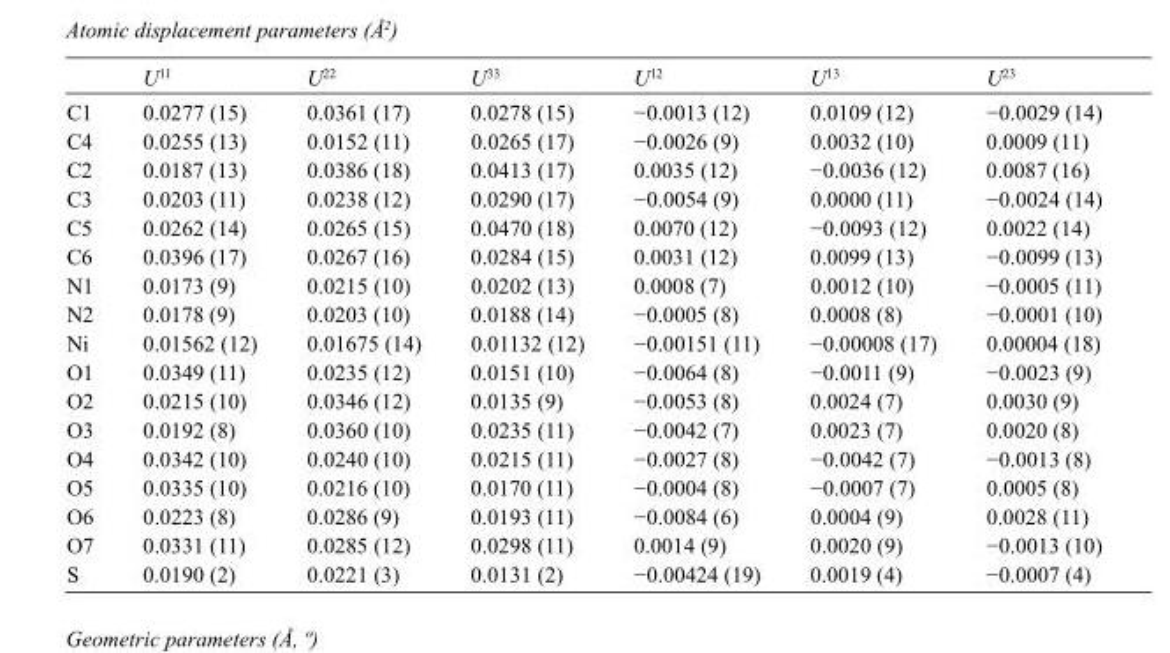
<table><thead><tr><td></td><td>U<sup>11</sup></td><td>U<sup>22</sup></td><td>U<sup>33</sup></td><td>U<sup>12</sup></td><td>U<sup>13</sup></td><td>U<sup>23</sup></td></tr></thead><tbody><tr><td>C1</td><td>0.0277 (15)</td><td>0.0361 (17)</td><td>0.0278 (15)</td><td>−0.0013 (12)</td><td>0.0109 (12)</td><td>−0.0029 (14)</td></tr><tr><td>C4</td><td>0.0255 (13)</td><td>0.0152 (11)</td><td>0.0265 (17)</td><td>−0.0026 (9)</td><td>0.0032 (10)</td><td>0.0009 (11)</td></tr><tr><td>C2</td><td>0.0187 (13)</td><td>0.0386 (18)</td><td>0.0413 (17)</td><td>0.0035 (12)</td><td>−0.0036 (12)</td><td>0.0087 (16)</td></tr><tr><td>C3</td><td>0.0203 (11)</td><td>0.0238 (12)</td><td>0.0290 (17)</td><td>−0.0054 (9)</td><td>0.0000 (11)</td><td>−0.0024 (14)</td></tr><tr><td>C5</td><td>0.0262 (14)</td><td>0.0265 (15)</td><td>0.0470 (18)</td><td>0.0070 (12)</td><td>−0.0093 (12)</td><td>0.0022 (14)</td></tr><tr><td>C6</td><td>0.0396 (17)</td><td>0.0267 (16)</td><td>0.0284 (15)</td><td>0.0031 (12)</td><td>0.0099 (13)</td><td>−0.0099 (13)</td></tr><tr><td>N1</td><td>0.0173 (9)</td><td>0.0215 (10)</td><td>0.0202 (13)</td><td>0.0008 (7)</td><td>0.0012 (10)</td><td>−0.0005 (11)</td></tr><tr><td>N2</td><td>0.0178 (9)</td><td>0.0203 (10)</td><td>0.0188 (14)</td><td>−0.0005 (8)</td><td>0.0008 (8)</td><td>−0.0001 (10)</td></tr><tr><td>Ni</td><td>0.01562 (12)</td><td>0.01675 (14)</td><td>0.01132 (12)</td><td>−0.00151 (11)</td><td>−0.00008 (17)</td><td>0.00004 (18)</td></tr><tr><td>O1</td><td>0.0349 (11)</td><td>0.0235 (12)</td><td>0.0151 (10)</td><td>−0.0064 (8)</td><td>−0.0011 (9)</td><td>−0.0023 (9)</td></tr><tr><td>O2</td><td>0.0215 (10)</td><td>0.0346 (12)</td><td>0.0135 (9)</td><td>−0.0053 (8)</td><td>0.0024 (7)</td><td>0.0030 (9)</td></tr><tr><td>O3</td><td>0.0192 (8)</td><td>0.0360 (10)</td><td>0.0235 (11)</td><td>−0.0042 (7)</td><td>0.0023 (7)</td><td>0.0020 (8)</td></tr><tr><td>O4</td><td>0.0342 (10)</td><td>0.0240 (10)</td><td>0.0215 (11)</td><td>−0.0027 (8)</td><td>−0.0042 (7)</td><td>−0.0013 (8)</td></tr><tr><td>O5</td><td>0.0335 (10)</td><td>0.0216 (10)</td><td>0.0170 (11)</td><td>−0.0004 (8)</td><td>−0.0007 (7)</td><td>0.0005 (8)</td></tr><tr><td>O6</td><td>0.0223 (8)</td><td>0.0286 (9)</td><td>0.0193 (11)</td><td>−0.0084 (6)</td><td>0.0004 (9)</td><td>0.0028 (11)</td></tr><tr><td>O7</td><td>0.0331 (11)</td><td>0.0285 (12)</td><td>0.0298 (11)</td><td>0.0014 (9)</td><td>0.0020 (9)</td><td>−0.0013 (10)</td></tr><tr><td>S</td><td>0.0190 (2)</td><td>0.0221 (3)</td><td>0.0131 (2)</td><td>−0.00424 (19)</td><td>0.0019 (4)</td><td>−0.0007 (4)</td></tr></tbody></table>